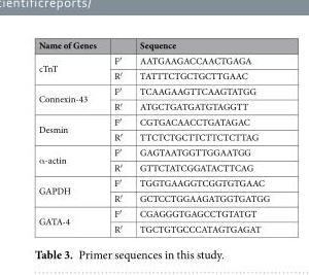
<table><thead><tr><td>Name of Genes</td><td></td><td>Sequence</td></tr></thead><tbody><tr><td rowspan="2">cTnT</td><td>F′</td><td>AATGAAGACCAACTGAGA</td></tr><tr><td>R′</td><td>TATTTCTGCTGCTTGAAC</td></tr><tr><td rowspan="2">Connexin-43</td><td>F′</td><td>TCAAGAAGTTCAAGTATGG</td></tr><tr><td>R′</td><td>ATGCTGATGATGTAGGTT</td></tr><tr><td rowspan="2">Desmin</td><td>F′</td><td>CGTGACAACCTGATAGAC</td></tr><tr><td>R′</td><td>TTCTCTGCTTCTTCTCTTAG</td></tr><tr><td rowspan="2">α-actin</td><td>F′</td><td>GAGTAATGGTTGGAATGG</td></tr><tr><td>R′</td><td>GTTCTATCGGATACTTCAG</td></tr><tr><td rowspan="2">GAPDH</td><td>F′</td><td>TGGTGAAGGTCGGTGTGAAC</td></tr><tr><td>R′</td><td>GCTCCTGGAAGATGGTGATGG</td></tr><tr><td rowspan="2">GATA-4</td><td>F′</td><td>CGAGGGTGAGCCTGTATGT</td></tr><tr><td>R′</td><td>TGCTGTGCCCATAGTGAGAT</td></tr></tbody></table>